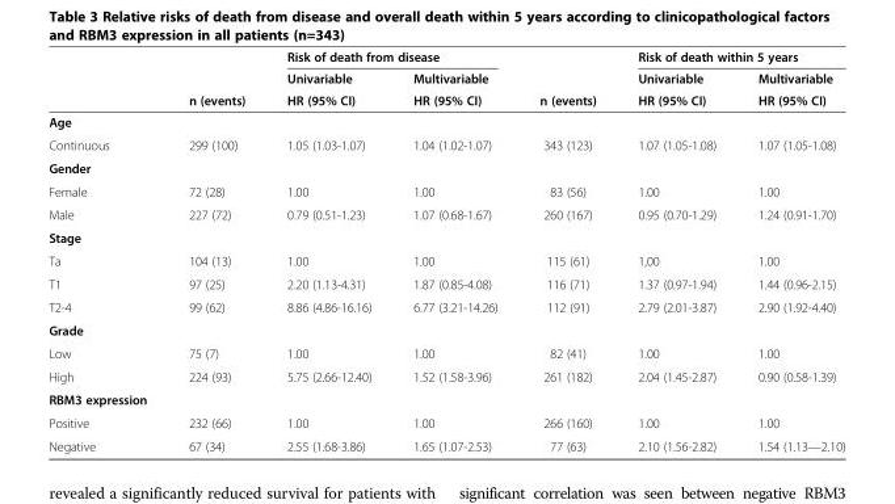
<table><thead><tr><td rowspan="3"></td><td rowspan="3">n (events)</td><td colspan="2">Risk of death from disease</td><td rowspan="3">n (events)</td><td colspan="2">Risk of death within 5 years</td></tr><tr><td rowspan="2">Univariable HR (95% CI)</td><td rowspan="2">Multivariable HR (95% CI)</td><td rowspan="2">Univariable HR (95% CI)</td><td rowspan="2">Multivariable HR (95% CI)</td></tr><tr></tr></thead><tbody><tr><td colspan="7">Age</td></tr><tr><td>Continuous</td><td>299 (100)</td><td>1.05 (1.03-1.07)</td><td>1.04 (1.02-1.07)</td><td>343 (123)</td><td>1.07 (1.05-1.08)</td><td>1.07 (1.05-1.08)</td></tr><tr><td colspan="7">Gender</td></tr><tr><td>Female</td><td>72 (28)</td><td>1.00</td><td>1.00</td><td>83 (56)</td><td>1.00</td><td>1.00</td></tr><tr><td>Male</td><td>227 (72)</td><td>0.79 (0.51-1.23)</td><td>1.07 (0.68-1.67)</td><td>260 (167)</td><td>0.95 (0.70-1.29)</td><td>1.24 (0.91-1.70)</td></tr><tr><td colspan="7">Stage</td></tr><tr><td>Ta</td><td>104 (13)</td><td>1.00</td><td>1.00</td><td>115 (61)</td><td>1,00</td><td>1.00</td></tr><tr><td>T1</td><td>97 (25)</td><td>2.20 (1.13-4.31)</td><td>1.87 (0.85-4.08)</td><td>116 (71)</td><td>1.37 (0.97-1.94)</td><td>1.44 (0.96-2.15)</td></tr><tr><td>T2-4</td><td>99 (62)</td><td>8.86 (4.86-16.16)</td><td>6.77 (3.21-14.26)</td><td>112 (91)</td><td>2.79 (2.01-3.87)</td><td>2.90 (1.92-4.40)</td></tr><tr><td colspan="7">Grade</td></tr><tr><td>Low</td><td>75 (7)</td><td>1.00</td><td>1.00</td><td>82 (41)</td><td>1.00</td><td>1.00</td></tr><tr><td>High</td><td>224 (93)</td><td>5.75 (2.66-12.40)</td><td>1.52 (1.58-3.96)</td><td>261 (182)</td><td>2.04 (1.45-2.87)</td><td>0.90 (0.58-1.39)</td></tr><tr><td colspan="7">RBM3 expression</td></tr><tr><td>Positive</td><td>232 (66)</td><td>1.00</td><td>1.00</td><td>266 (160)</td><td>1.00</td><td>1.00</td></tr><tr><td>Negative</td><td>67 (34)</td><td>2.55 (1.68-3.86)</td><td>1.65 (1.07-2.53)</td><td>77 (63)</td><td>2.10 (1.56-2.82)</td><td>1.54 (1.13—2.10)</td></tr></tbody></table>